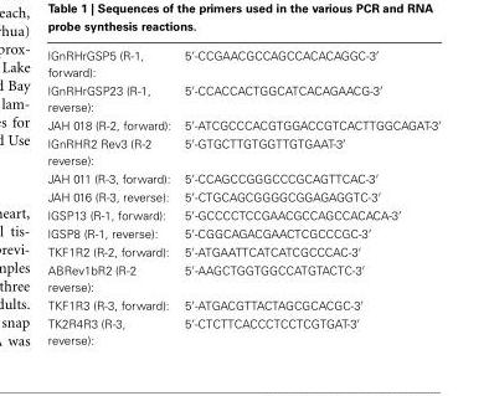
<table><tbody><tr><td>lGnRHrGSP5 (R-1, forward):</td><td>5′-CCGAACGCCAGCCACACAGGC-3′</td></tr><tr><td>lGnRHrGSP23 (R-1, reverse):</td><td>5′-CCACCACTGGCATCACAGAACG-3′</td></tr><tr><td>JAH 018 (R-2, forward):</td><td>5′-ATCGCCCACGTGGACCGTCACTTGGCAGAT-3′</td></tr><tr><td>lGnRHR2 Rev3 (R-2 reverse):</td><td>5′-GTGCTTGTGGTTGTGAAT-3′</td></tr><tr><td>JAH 011 (R-3, forward):</td><td>5′-CCAGCCGGGCCCGCAGTTCAC-3′</td></tr><tr><td>JAH 016 (R-3, reverse):</td><td>5′-CTGCAGCGGGGCGGAGAGGTC-3′</td></tr><tr><td>lGSP13 (R-1, forward):</td><td>5′-GCCCCTCCGAACGCCAGCCACACA-3′</td></tr><tr><td>lGSP8 (R-1, reverse):</td><td>5′-CGGCAGACGAACTCGCCCGC-3′</td></tr><tr><td>TKF1R2 (R-2, forward):</td><td>5′-ATGAATTCATCATCGCCCAC-3′</td></tr><tr><td>ABRev1bR2 (R-2 reverse):</td><td>5′-AAGCTGGTGGCCATGTACTC-3′</td></tr><tr><td>TKF1R3 (R-3, forward):</td><td>5′-ATGACGTTACTAGCGCACGC-3′</td></tr><tr><td>TK2R4R3 (R-3, reverse):</td><td>5′-CTCTTCACCCTCCTCGTGAT-3′</td></tr></tbody></table>